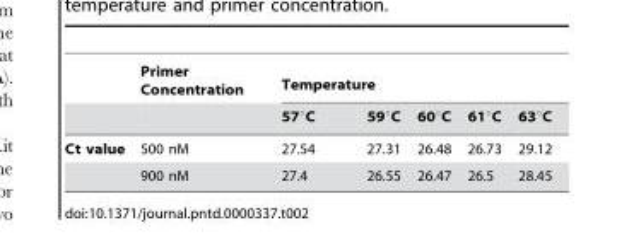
<table><thead><tr><td rowspan="2"></td><td rowspan="2">Primer Concentration</td><td colspan="5">Temperature</td></tr><tr><td>57°C</td><td>59°C</td><td>60°C</td><td>61°C</td><td>63°C</td></tr></thead><tbody><tr><td rowspan="2">Ct value</td><td>500 nM</td><td>27.54</td><td>27.31</td><td>26.48</td><td>26.73</td><td>29.12</td></tr><tr><td>900 nM</td><td>27.4</td><td>26.55</td><td>26.47</td><td>26.5</td><td>28.45</td></tr></tbody></table>